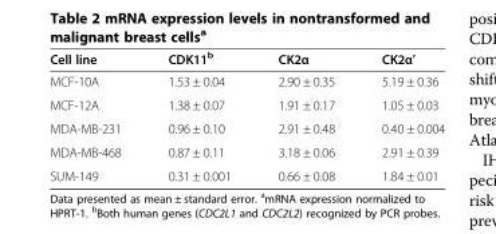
<table><thead><tr><td>Cell line</td><td>CDK11<sup>b</sup></td><td>CK2α</td><td>CK2α′</td></tr></thead><tbody><tr><td>MCF-10A</td><td>1.53 ± 0.04</td><td>2.90 ± 0.35</td><td>5.19 ± 0.36</td></tr><tr><td>MCF-12A</td><td>1.38 ± 0.07</td><td>1.91 ± 0.17</td><td>1.05 ± 0.03</td></tr><tr><td>MDA-MB-231</td><td>0.96 ± 0.10</td><td>2.91 ± 0.48</td><td>0.40 ± 0.004</td></tr><tr><td>MDA-MB-468</td><td>0.87 ± 0.11</td><td>3.18 ± 0.06</td><td>2.91 ± 0.39</td></tr><tr><td>SUM-149</td><td>0.31 ± 0.001</td><td>0.66 ± 0.08</td><td>1.84 ± 0.01</td></tr></tbody></table>